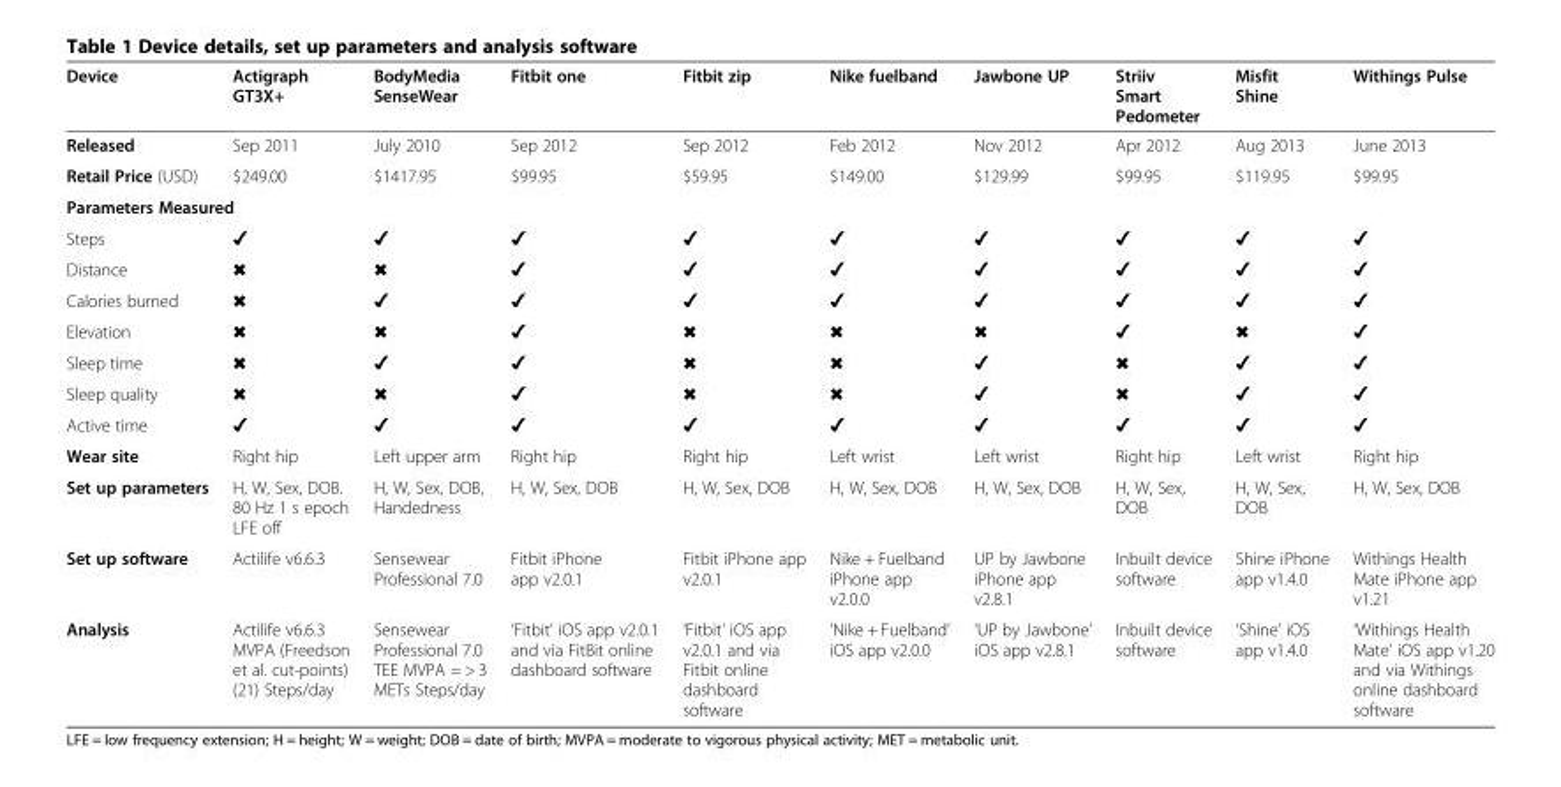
<table><thead><tr><td>Device</td><td>Actigraph GT3X+</td><td>BodyMedia SenseWear</td><td>Fitbit one</td><td>Fitbit zip</td><td>Nike fuelband</td><td>Jawbone UP</td><td>Striiv Smart Pedometer</td><td>Misfit Shine</td><td>Withings Pulse</td></tr></thead><tbody><tr><td>Released</td><td>Sep 2011</td><td>July 2010</td><td>Sep 2012</td><td>Sep 2012</td><td>Feb 2012</td><td>Nov 2012</td><td>Apr 2012</td><td>Aug 2013</td><td>June 2013</td></tr><tr><td>Retail Price (USD)</td><td>$249.00</td><td>$1417.95</td><td>$99.95</td><td>$59.95</td><td>$149.00</td><td>$129.99</td><td>$99.95</td><td>$119.95</td><td>$99.95</td></tr><tr><td colspan="10">Parameters Measured</td></tr><tr><td>Steps</td><td>✔</td><td>✔</td><td>✔</td><td>✔</td><td>✔</td><td>✔</td><td>✔</td><td>✔</td><td>✔</td></tr><tr><td>Distance</td><td>✖</td><td>✖</td><td>✔</td><td>✔</td><td>✔</td><td>✔</td><td>✔</td><td>✔</td><td>✔</td></tr><tr><td>Calories burned</td><td>✖</td><td>✔</td><td>✔</td><td>✔</td><td>✔</td><td>✔</td><td>✔</td><td>✔</td><td>✔</td></tr><tr><td>Elevation</td><td>✖</td><td>✖</td><td>✔</td><td>✖</td><td>✖</td><td>✖</td><td>✔</td><td>✖</td><td>✔</td></tr><tr><td>Sleep time</td><td>✖</td><td>✔</td><td>✔</td><td>✖</td><td>✖</td><td>✔</td><td>✖</td><td>✔</td><td>✔</td></tr><tr><td>Sleep quality</td><td>✖</td><td>✖</td><td>✔</td><td>✖</td><td>✖</td><td>✔</td><td>✖</td><td>✔</td><td>✔</td></tr><tr><td>Active time</td><td>✔</td><td>✔</td><td>✔</td><td>✔</td><td>✔</td><td>✔</td><td>✔</td><td>✔</td><td>✔</td></tr><tr><td>Wear site</td><td>Right hip</td><td>Left upper arm</td><td>Right hip</td><td>Right hip</td><td>Left wrist</td><td>Left wrist</td><td>Right hip</td><td>Left wrist</td><td>Right hip</td></tr><tr><td>Set up parameters</td><td>H, W, Sex, DOB. 80 Hz 1 s epoch LFE off</td><td>H, W, Sex, DOB, Handedness</td><td>H, W, Sex, DOB</td><td>H, W, Sex, DOB</td><td>H, W, Sex, DOB</td><td>H, W, Sex, DOB</td><td>H, W, Sex, DOB</td><td>H, W, Sex, DOB</td><td>H, W, Sex, DOB</td></tr><tr><td>Set up software</td><td>Actilife v6.6.3</td><td>Sensewear Professional 7.0</td><td>Fitbit iPhone app v2.0.1</td><td>Fitbit iPhone app v2.0.1</td><td>Nike + Fuelband iPhone app v2.0.0</td><td>UP by Jawbone iPhone app v2.8.1</td><td>Inbuilt device software</td><td>Shine iPhone app v1.4.0</td><td>Withings Health Mate iPhone app v1.21</td></tr><tr><td>Analysis</td><td>Actilife v6.6.3 MVPA (Freedson et al. cut-points) (21) Steps/day</td><td>Sensewear Professional 7.0 TEE MVPA = &gt; 3 METs Steps/day</td><td>‘Fitbit’ iOS app v2.0.1 and via FitBit online dashboard software</td><td>‘Fitbit’ iOS app v2.0.1 and via Fitbit online dashboard software</td><td>‘Nike + Fuelband’ iOS app v2.0.0</td><td>‘UP by Jawbone’ iOS app v2.8.1</td><td>Inbuilt device software</td><td>‘Shine’ iOS app v1.4.0</td><td>‘Withings Health Mate’ iOS app v1.20 and via Withings online dashboard software</td></tr></tbody></table>